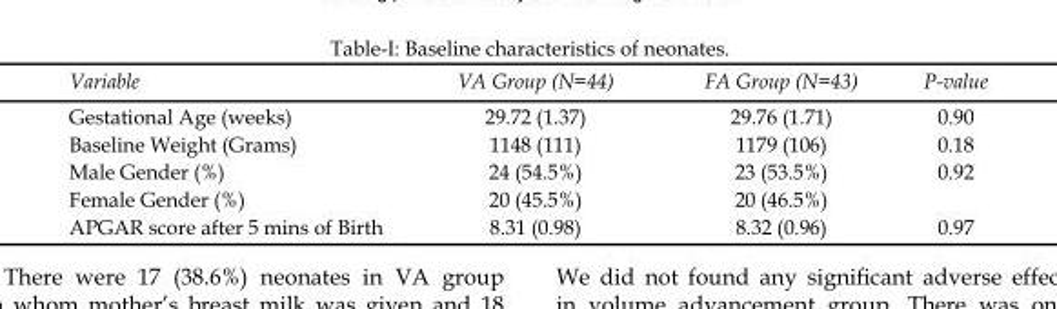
<table><thead><tr><td>Variable</td><td>VA Group (N=44)</td><td>FA Group (N=43)</td><td>P-value</td></tr></thead><tbody><tr><td>Gestational Age (weeks)</td><td>29.72 (1.37)</td><td>29.76 (1.71)</td><td>0.90</td></tr><tr><td>Baseline Weight (Grams)</td><td>1148 (111)</td><td>1179 (106)</td><td>0.18</td></tr><tr><td>Male Gender (%)</td><td>24 (54.5%)</td><td>23 (53.5%)</td><td>0.92</td></tr><tr><td>Female Gender (%)</td><td>20 (45.5%)</td><td>20 (46.5%)</td><td></td></tr><tr><td>APGAR score after 5 mins of Birth</td><td>8.31 (0.98)</td><td>8.32 (0.96)</td><td>0.97</td></tr></tbody></table>